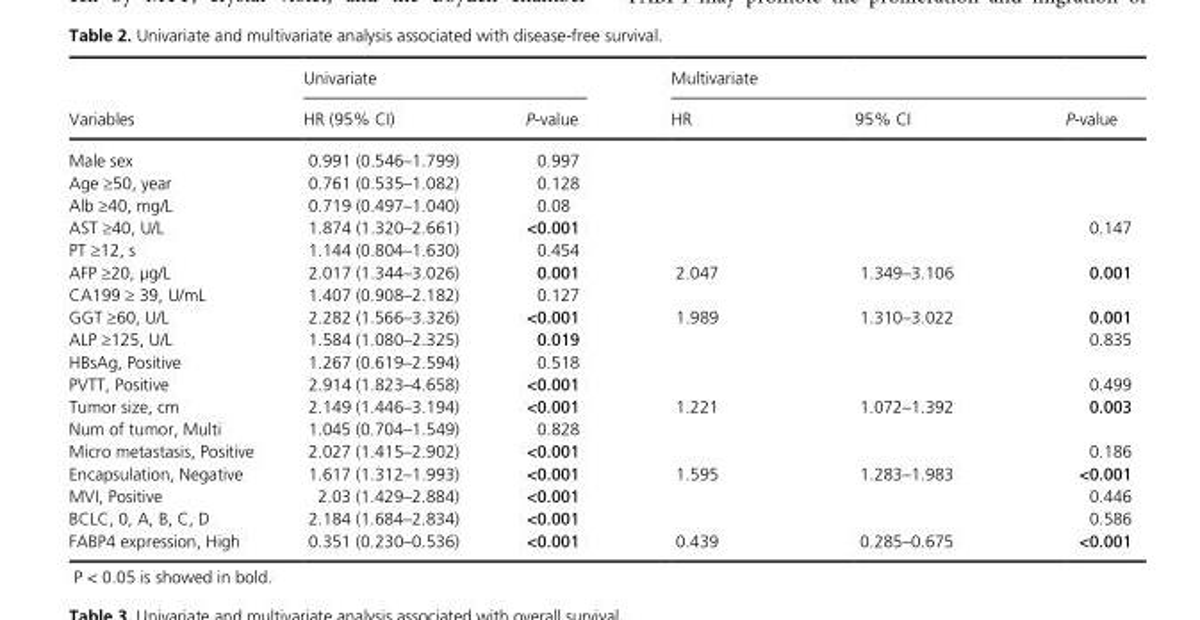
<table><thead><tr><td rowspan="2">Variables</td><td colspan="2">Univariate</td><td colspan="3">Multivariate</td></tr><tr><td>HR (95% CI)</td><td>P- value</td><td>HR</td><td>95% CI</td><td>P- value</td></tr></thead><tbody><tr><td>Male sex</td><td>0.991 (0.546–1.799)</td><td>0.997</td><td></td><td></td><td></td></tr><tr><td>Age ≥50, year</td><td>0.761 (0.535–1.082)</td><td>0.128</td><td></td><td></td><td></td></tr><tr><td>Alb ≥40, mg/L</td><td>0.719 (0.497–1.040)</td><td>0.08</td><td></td><td></td><td></td></tr><tr><td>AST ≥40, U/L</td><td>1.874 (1.320–2.661)</td><td>&lt;0.001</td><td></td><td></td><td>0.147</td></tr><tr><td>PT ≥12, s</td><td>1.144 (0.804–1.630)</td><td>0.454</td><td></td><td></td><td></td></tr><tr><td>AFP ≥20, μg/L</td><td>2.017 (1.344–3.026)</td><td>0.001</td><td>2.047</td><td>1.349–3.106</td><td>0.001</td></tr><tr><td>CA199 ≥ 39, U/mL</td><td>1.407 (0.908–2.182)</td><td>0.127</td><td></td><td></td><td></td></tr><tr><td>GGT ≥60, U/L</td><td>2.282 (1.566–3.326)</td><td>&lt;0.001</td><td>1.989</td><td>1.310–3.022</td><td>0.001</td></tr><tr><td>ALP ≥125, U/L</td><td>1.584 (1.080–2.325)</td><td>0.019</td><td></td><td></td><td>0.835</td></tr><tr><td>HBsAg, Positive</td><td>1.267 (0.619–2.594)</td><td>0.518</td><td></td><td></td><td></td></tr><tr><td>PVTT, Positive</td><td>2.914 (1.823–4.658)</td><td>&lt;0.001</td><td></td><td></td><td>0.499</td></tr><tr><td>Tumor size, cm</td><td>2.149 (1.446–3.194)</td><td>&lt;0.001</td><td>1.221</td><td>1.072–1.392</td><td>0.003</td></tr><tr><td>Num of tumor, Multi</td><td>1.045 (0.704–1.549)</td><td>0.828</td><td></td><td></td><td></td></tr><tr><td>Micro metastasis, Positive</td><td>2.027 (1.415–2.902)</td><td>&lt;0.001</td><td></td><td></td><td>0.186</td></tr><tr><td>Encapsulation, Negative</td><td>1.617 (1.312–1.993)</td><td>&lt;0.001</td><td>1.595</td><td>1.283–1.983</td><td>&lt;0.001</td></tr><tr><td>MVI, Positive</td><td>2.03 (1.429–2.884)</td><td>&lt;0.001</td><td></td><td></td><td>0.446</td></tr><tr><td>BCLC, 0, A, B, C, D</td><td>2.184 (1.684–2.834)</td><td>&lt;0.001</td><td></td><td></td><td>0.586</td></tr><tr><td>FABP4 expression, High</td><td>0.351 (0.230–0.536)</td><td>&lt;0.001</td><td>0.439</td><td>0.285–0.675</td><td>&lt;0.001</td></tr></tbody></table>